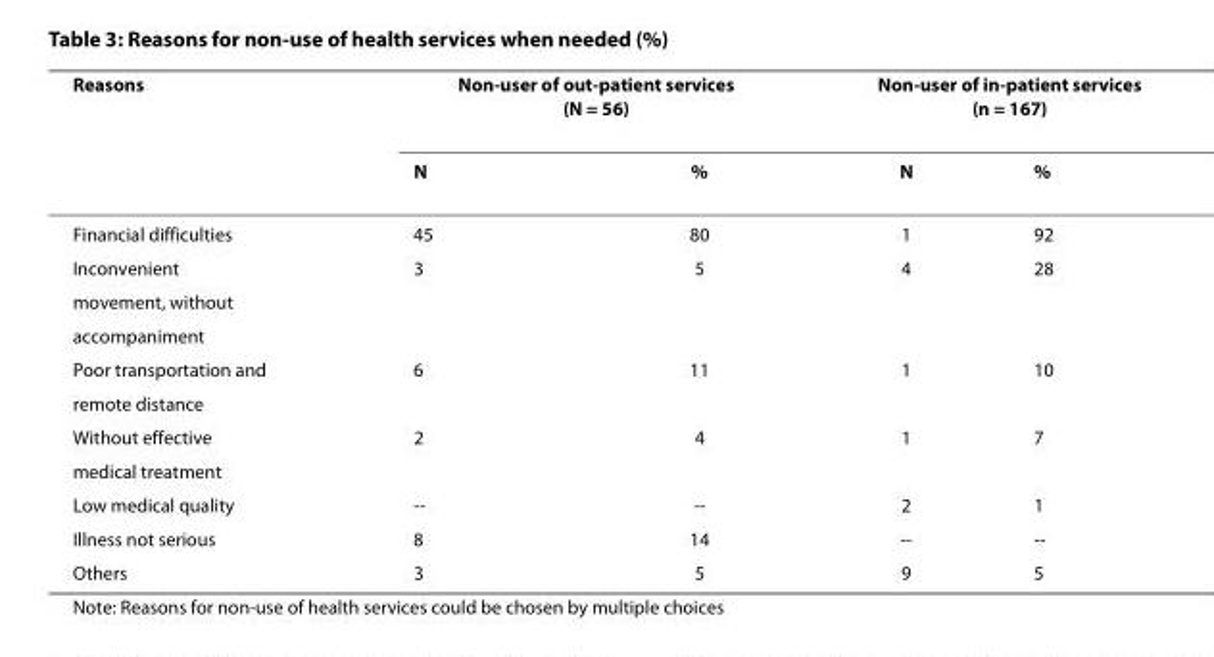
<table><thead><tr><td rowspan="2">Reasons</td><td colspan="2">Non-user of out-patient services (N = 56)</td><td colspan="2">Non-user of in-patient services (n = 167)</td></tr><tr><td>N</td><td>%</td><td>N</td><td>%</td></tr></thead><tbody><tr><td>Financial difficulties</td><td>45</td><td>80</td><td>1</td><td>92</td></tr><tr><td>Inconvenient</td><td>3</td><td>5</td><td>4</td><td>28</td></tr><tr><td colspan="5">movement, without</td></tr><tr><td colspan="5">accompaniment</td></tr><tr><td>Poor transportation and</td><td>6</td><td>11</td><td>1</td><td>10</td></tr><tr><td colspan="5">remote distance</td></tr><tr><td>Without effective</td><td>2</td><td>4</td><td>1</td><td>7</td></tr><tr><td colspan="5">medical treatment</td></tr><tr><td>Low medical quality</td><td>--</td><td>--</td><td>2</td><td>1</td></tr><tr><td>Illness not serious</td><td>8</td><td>14</td><td>--</td><td>--</td></tr><tr><td>Others</td><td>3</td><td>5</td><td>9</td><td>5</td></tr></tbody></table>